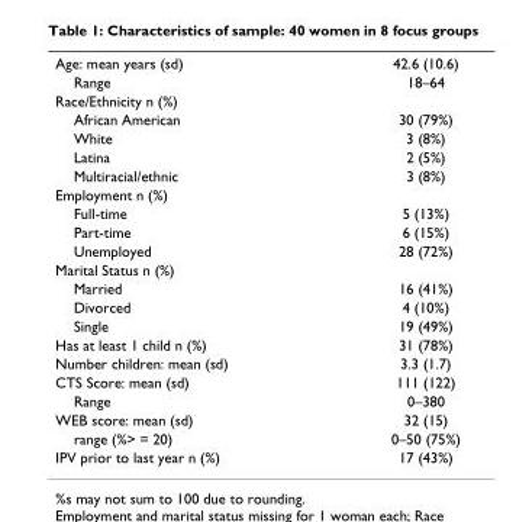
<table><tbody><tr><td>Age: mean years (sd)</td><td>42.6 (10.6)</td></tr><tr><td>Range</td><td>18–64</td></tr><tr><td colspan="2">Race/Ethnicity n (%)</td></tr><tr><td>African American</td><td>30 (79%)</td></tr><tr><td>White</td><td>3 (8%)</td></tr><tr><td>Latina</td><td>2 (5%)</td></tr><tr><td>Multiracial/ethnic</td><td>3 (8%)</td></tr><tr><td colspan="2">Employment n (%)</td></tr><tr><td>Full-time</td><td>5 (13%)</td></tr><tr><td>Part-time</td><td>6 (15%)</td></tr><tr><td>Unemployed</td><td>28 (72%)</td></tr><tr><td colspan="2">Marital Status n (%)</td></tr><tr><td>Married</td><td>16 (41%)</td></tr><tr><td>Divorced</td><td>4 (10%)</td></tr><tr><td>Single</td><td>19 (49%)</td></tr><tr><td>Has at least 1 child n (%)</td><td>31 (78%)</td></tr><tr><td>Number children: mean (sd)</td><td>3.3 (1.7)</td></tr><tr><td>CTS Score: mean (sd)</td><td>111 (122)</td></tr><tr><td>Range</td><td>0–380</td></tr><tr><td>WEB score: mean (sd)</td><td>32 (15)</td></tr><tr><td>range (%&gt; = 20)</td><td>0–50 (75%)</td></tr><tr><td>IPV prior to last year n (%)</td><td>17 (43%)</td></tr></tbody></table>